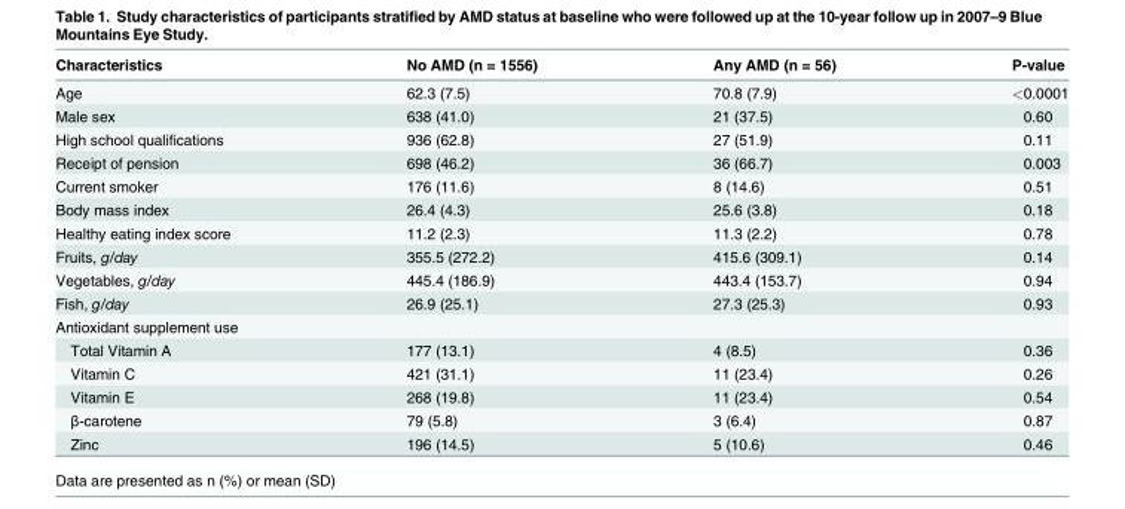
<table><thead><tr><td>Characteristics</td><td>No AMD (n = 1556)</td><td>Any AMD (n = 56)</td><td>P-value</td></tr></thead><tbody><tr><td>Age</td><td>62.3 (7.5)</td><td>70.8 (7.9)</td><td>&lt;0.0001</td></tr><tr><td>Male sex</td><td>638 (41.0)</td><td>21 (37.5)</td><td>0.60</td></tr><tr><td>High school qualifications</td><td>936 (62.8)</td><td>27 (51.9)</td><td>0.11</td></tr><tr><td>Receipt of pension</td><td>698 (46.2)</td><td>36 (66.7)</td><td>0.003</td></tr><tr><td>Current smoker</td><td>176 (11.6)</td><td>8 (14.6)</td><td>0.51</td></tr><tr><td>Body mass index</td><td>26.4 (4.3)</td><td>25.6 (3.8)</td><td>0.18</td></tr><tr><td>Healthy eating index score</td><td>11.2 (2.3)</td><td>11.3 (2.2)</td><td>0.78</td></tr><tr><td>Fruits, g/day</td><td>355.5 (272.2)</td><td>415.6 (309.1)</td><td>0.14</td></tr><tr><td>Vegetables, g/day</td><td>445.4 (186.9)</td><td>443.4 (153.7)</td><td>0.94</td></tr><tr><td>Fish, g/day</td><td>26.9 (25.1)</td><td>27.3 (25.3)</td><td>0.93</td></tr><tr><td colspan="4">Antioxidant supplement use</td></tr><tr><td>Total Vitamin A</td><td>177 (13.1)</td><td>4 (8.5)</td><td>0.36</td></tr><tr><td>Vitamin C</td><td>421 (31.1)</td><td>11 (23.4)</td><td>0.26</td></tr><tr><td>Vitamin E</td><td>268 (19.8)</td><td>11 (23.4)</td><td>0.54</td></tr><tr><td>β-carotene</td><td>79 (5.8)</td><td>3 (6.4)</td><td>0.87</td></tr><tr><td>Zinc</td><td>196 (14.5)</td><td>5 (10.6)</td><td>0.46</td></tr></tbody></table>